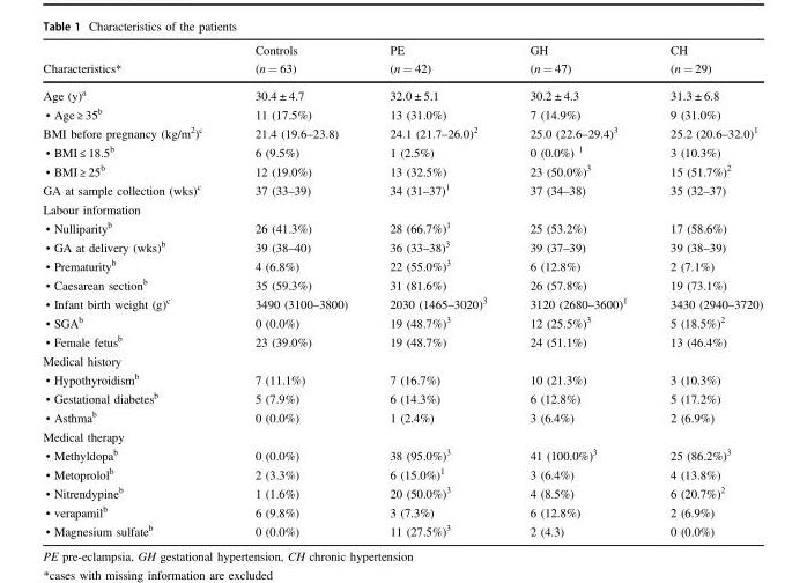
<table><thead><tr><td rowspan="2">Characteristics*</td><td rowspan="2">Controls (n = 63)</td><td rowspan="2">PE (n = 42)</td><td rowspan="2">GH (n = 47)</td><td rowspan="2">CH (n = 29)</td></tr><tr></tr></thead><tbody><tr><td>Age (y)<sup>a</sup></td><td>30.4 ± 4.7</td><td>32.0 ± 5.1</td><td>30.2 ± 4.3</td><td>31.3 ± 6.8</td></tr><tr><td>• Age ≥ 35<sup>b</sup></td><td>11 (17.5%)</td><td>13 (31.0%)</td><td>7 (14.9%)</td><td>9 (31.0%)</td></tr><tr><td>BMI before pregnancy (kg/m<sup>2</sup>)<sup>c</sup></td><td>21.4 (19.6–23.8)</td><td>24.1 (21.7–26.0)<sup>2</sup></td><td>25.0 (22.6–29.4)<sup>3</sup></td><td>25.2 (20.6–32.0)<sup>1</sup></td></tr><tr><td>• BMI ≤ 18.5<sup>b</sup></td><td>6 (9.5%)</td><td>1 (2.5%)</td><td>0 (0.0%) <sup>1</sup></td><td>3 (10.3%)</td></tr><tr><td>• BMI ≥ 25<sup>b</sup></td><td>12 (19.0%)</td><td>13 (32.5%)</td><td>23 (50.0%)<sup>3</sup></td><td>15 (51.7%)<sup>2</sup></td></tr><tr><td>GA at sample collection (wks)<sup>c</sup></td><td>37 (33–39)</td><td>34 (31–37)<sup>1</sup></td><td>37 (34–38)</td><td>35 (32–37)</td></tr><tr><td colspan="5">Labour information</td></tr><tr><td>• Nulliparity<sup>b</sup></td><td>26 (41.3%)</td><td>28 (66.7%)<sup>1</sup></td><td>25 (53.2%)</td><td>17 (58.6%)</td></tr><tr><td>• GA at delivery (wks)<sup>b</sup></td><td>39 (38–40)</td><td>36 (33–38)<sup>3</sup></td><td>39 (37–39)</td><td>39 (38–39)</td></tr><tr><td>• Prematurity<sup>b</sup></td><td>4 (6.8%)</td><td>22 (55.0%)<sup>3</sup></td><td>6 (12.8%)</td><td>2 (7.1%)</td></tr><tr><td>• Caesarean section<sup>b</sup></td><td>35 (59.3%)</td><td>31 (81.6%)</td><td>26 (57.8%)</td><td>19 (73.1%)</td></tr><tr><td>• Infant birth weight (g)<sup>c</sup></td><td>3490 (3100–3800)</td><td>2030 (1465–3020)<sup>3</sup></td><td>3120 (2680–3600)<sup>1</sup></td><td>3430 (2940–3720)</td></tr><tr><td>• SGA<sup>b</sup></td><td>0 (0.0%)</td><td>19 (48.7%)<sup>3</sup></td><td>12 (25.5%)<sup>3</sup></td><td>5 (18.5%)<sup>2</sup></td></tr><tr><td>• Female fetus<sup>b</sup></td><td>23 (39.0%)</td><td>19 (48.7%)</td><td>24 (51.1%)</td><td>13 (46.4%)</td></tr><tr><td colspan="5">Medical history</td></tr><tr><td>• Hypothyroidism<sup>b</sup></td><td>7 (11.1%)</td><td>7 (16.7%)</td><td>10 (21.3%)</td><td>3 (10.3%)</td></tr><tr><td>• Gestational diabetes<sup>b</sup></td><td>5 (7.9%)</td><td>6 (14.3%)</td><td>6 (12.8%)</td><td>5 (17.2%)</td></tr><tr><td>• Asthma<sup>b</sup></td><td>0 (0.0%)</td><td>1 (2.4%)</td><td>3 (6.4%)</td><td>2 (6.9%)</td></tr><tr><td colspan="5">Medical therapy</td></tr><tr><td>• Methyldopa<sup>b</sup></td><td>0 (0.0%)</td><td>38 (95.0%)<sup>3</sup></td><td>41 (100.0%)<sup>3</sup></td><td>25 (86.2%)<sup>3</sup></td></tr><tr><td>• Metoprolol<sup>b</sup></td><td>2 (3.3%)</td><td>6 (15.0%)<sup>1</sup></td><td>3 (6.4%)</td><td>4 (13.8%)</td></tr><tr><td>• Nitrendypine<sup>b</sup></td><td>1 (1.6%)</td><td>20 (50.0%)<sup>3</sup></td><td>4 (8.5%)</td><td>6 (20.7%)<sup>2</sup></td></tr><tr><td>• verapamil<sup>b</sup></td><td>6 (9.8%)</td><td>3 (7.3%)</td><td>6 (12.8%)</td><td>2 (6.9%)</td></tr><tr><td>• Magnesium sulfate<sup>b</sup></td><td>0 (0.0%)</td><td>11 (27.5%)<sup>3</sup></td><td>2 (4.3)</td><td>0 (0.0%)</td></tr></tbody></table>